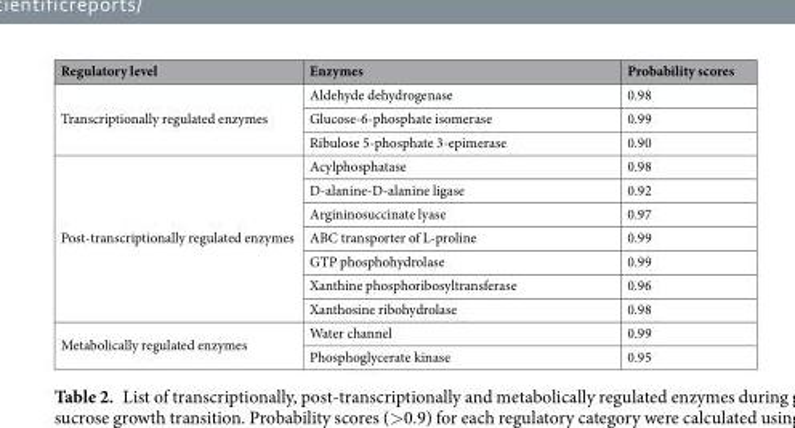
<table><thead><tr><td>Regulatory level</td><td>Enzymes</td><td>Probability scores</td></tr></thead><tbody><tr><td rowspan="3">Transcriptionally regulated enzymes</td><td>Aldehyde dehydrogenase</td><td>0.98</td></tr><tr><td>Glucose-6-phosphate isomerase</td><td>0.99</td></tr><tr><td>Ribulose 5-phosphate 3-epimerase</td><td>0.90</td></tr><tr><td rowspan="7">Post-transcriptionally regulated enzymes</td><td>Acylphosphatase</td><td>0.98</td></tr><tr><td>D-alanine-D-alanine ligase</td><td>0.92</td></tr><tr><td>Argininosuccinate lyase</td><td>0.97</td></tr><tr><td>ABC transporter of L-proline</td><td>0.99</td></tr><tr><td>GTP phosphohydrolase</td><td>0.99</td></tr><tr><td>Xanthine phosphoribosyltransferase</td><td>0.96</td></tr><tr><td>Xanthosine ribohydrolase</td><td>0.98</td></tr><tr><td rowspan="2">Metabolically regulated enzymes</td><td>Water channel</td><td>0.99</td></tr><tr><td>Phosphoglycerate kinase</td><td>0.95</td></tr></tbody></table>